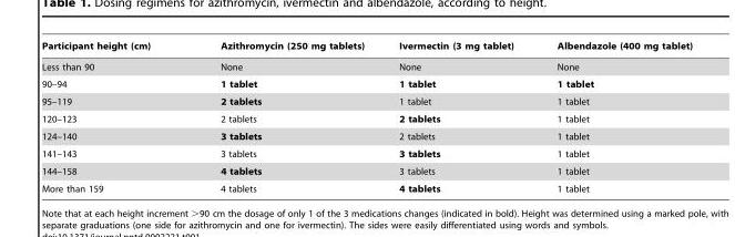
<table><thead><tr><td>Participant height (cm)</td><td>Azithromycin (250 mg tablets)</td><td>Ivermectin (3 mg tablet)</td><td>Albendazole (400 mg tablet)</td></tr></thead><tbody><tr><td>Less than 90</td><td>None</td><td>None</td><td>None</td></tr><tr><td>90–94</td><td>1 tablet</td><td>1 tablet</td><td>1 tablet</td></tr><tr><td>95–119</td><td>2 tablets</td><td>1 tablet</td><td>1 tablet</td></tr><tr><td>120–123</td><td>2 tablets</td><td>2 tablets</td><td>1 tablet</td></tr><tr><td>124–140</td><td>3 tablets</td><td>2 tablets</td><td>1 tablet</td></tr><tr><td>141–143</td><td>3 tablets</td><td>3 tablets</td><td>1 tablet</td></tr><tr><td>144–158</td><td>4 tablets</td><td>3 tablets</td><td>1 tablet</td></tr><tr><td>More than 159</td><td>4 tablets</td><td>4 tablets</td><td>1 tablet</td></tr></tbody></table>